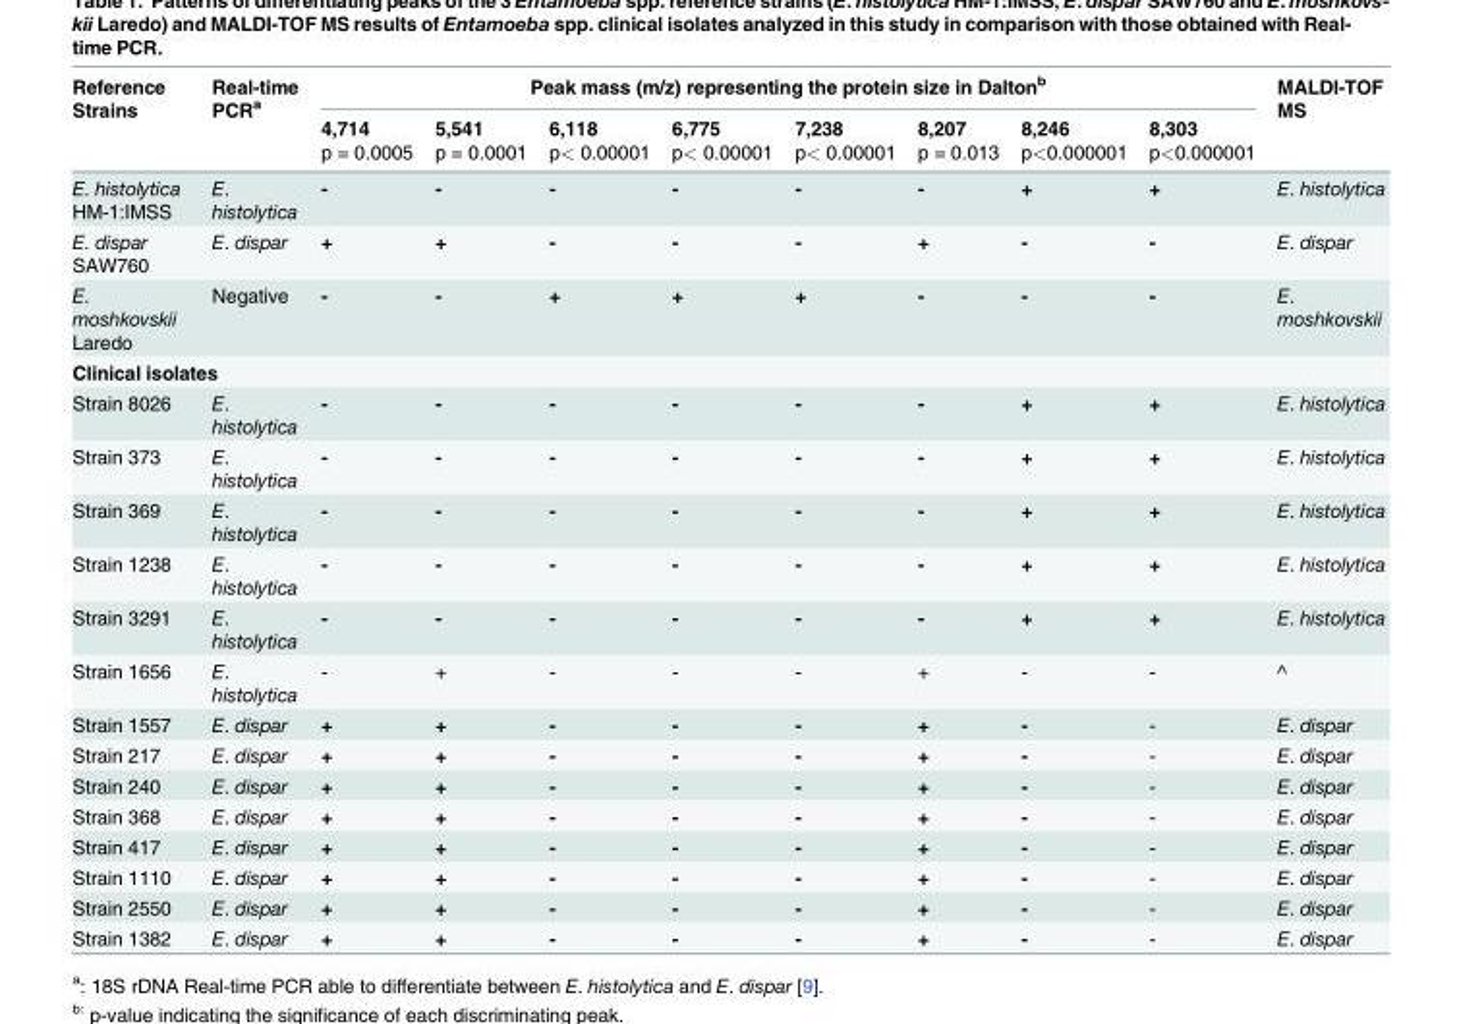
<table><thead><tr><td rowspan="2">Reference Strains</td><td rowspan="2">Real-time PCR<sup>a</sup></td><td colspan="8">Peak mass (m/z) representing the protein size in Dalton<sup>b</sup></td><td rowspan="2">MALDI-TOF MS</td></tr><tr><td>4,714 p = 0.0005</td><td>5,541 p = 0.0001</td><td>6,118 p&lt; 0.00001</td><td>6,775 p&lt; 0.00001</td><td>7,238 p&lt; 0.00001</td><td>8,207 p = 0.013</td><td>8,246 p&lt;0.000001</td><td>8,303 p&lt;0.000001</td></tr></thead><tbody><tr><td>E. histolytica HM-1:IMSS</td><td>E. histolytica</td><td>-</td><td>-</td><td>-</td><td>-</td><td>-</td><td>-</td><td>+</td><td>+</td><td>E. histolytica</td></tr><tr><td>E. dispar SAW760</td><td>E. dispar</td><td>+</td><td>+</td><td>-</td><td>-</td><td>-</td><td>+</td><td>-</td><td>-</td><td>E. dispar</td></tr><tr><td>E. moshkovskii Laredo</td><td>Negative</td><td>-</td><td>-</td><td>+</td><td>+</td><td>+</td><td>-</td><td>-</td><td>-</td><td>E. moshkovskii</td></tr><tr><td colspan="11">Clinical isolates</td></tr><tr><td>Strain 8026</td><td>E. histolytica</td><td>-</td><td>-</td><td>-</td><td>-</td><td>-</td><td>-</td><td>+</td><td>+</td><td>E. histolytica</td></tr><tr><td>Strain 373</td><td>E. histolytica</td><td>-</td><td>-</td><td>-</td><td>-</td><td>-</td><td>-</td><td>+</td><td>+</td><td>E. histolytica</td></tr><tr><td>Strain 369</td><td>E. histolytica</td><td>-</td><td>-</td><td>-</td><td>-</td><td>-</td><td>-</td><td>+</td><td>+</td><td>E. histolytica</td></tr><tr><td>Strain 1238</td><td>E. histolytica</td><td>-</td><td>-</td><td>-</td><td>-</td><td>-</td><td>-</td><td>+</td><td>+</td><td>E. histolytica</td></tr><tr><td>Strain 3291</td><td>E. histolytica</td><td>-</td><td>-</td><td>-</td><td>-</td><td>-</td><td>-</td><td>+</td><td>+</td><td>E. histolytica</td></tr><tr><td>Strain 1656</td><td>E. histolytica</td><td>-</td><td>+</td><td>-</td><td>-</td><td>-</td><td>+</td><td>-</td><td>-</td><td>^</td></tr><tr><td>Strain 1557</td><td>E. dispar</td><td>+</td><td>+</td><td>-</td><td>-</td><td>-</td><td>+</td><td>-</td><td>-</td><td>E. dispar</td></tr><tr><td>Strain 217</td><td>E. dispar</td><td>+</td><td>+</td><td>-</td><td>-</td><td>-</td><td>+</td><td>-</td><td>-</td><td>E. dispar</td></tr><tr><td>Strain 240</td><td>E. dispar</td><td>+</td><td>+</td><td>-</td><td>-</td><td>-</td><td>+</td><td>-</td><td>-</td><td>E. dispar</td></tr><tr><td>Strain 368</td><td>E. dispar</td><td>+</td><td>+</td><td>-</td><td>-</td><td>-</td><td>+</td><td>-</td><td>-</td><td>E. dispar</td></tr><tr><td>Strain 417</td><td>E. dispar</td><td>+</td><td>+</td><td>-</td><td>-</td><td>-</td><td>+</td><td>-</td><td>-</td><td>E. dispar</td></tr><tr><td>Strain 1110</td><td>E. dispar</td><td>+</td><td>+</td><td>-</td><td>-</td><td>-</td><td>+</td><td>-</td><td>-</td><td>E. dispar</td></tr><tr><td>Strain 2550</td><td>E. dispar</td><td>+</td><td>+</td><td>-</td><td>-</td><td>-</td><td>+</td><td>-</td><td>-</td><td>E. dispar</td></tr><tr><td>Strain 1382</td><td>E. dispar</td><td>+</td><td>+</td><td>-</td><td>-</td><td>-</td><td>+</td><td>-</td><td>-</td><td>E. dispar</td></tr></tbody></table>